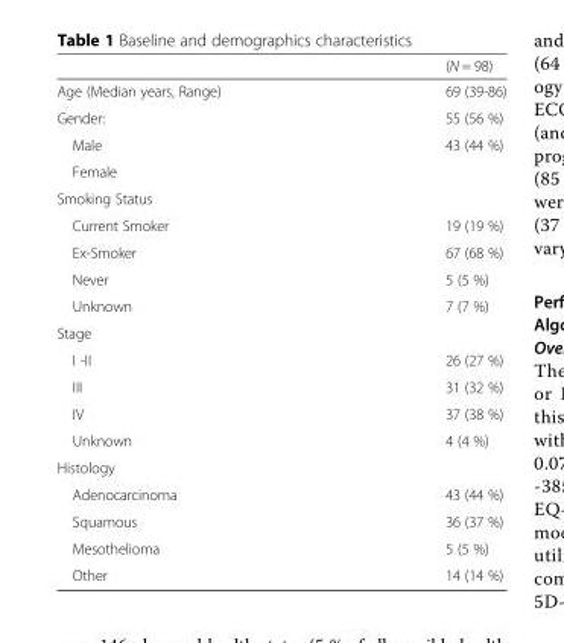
<table><thead><tr><td></td><td>(N = 98)</td></tr></thead><tbody><tr><td>Age (Median years, Range)</td><td>69 (39-86)</td></tr><tr><td>Gender:</td><td>55 (56 %)</td></tr><tr><td>Male</td><td>43 (44 %)</td></tr><tr><td colspan="2">Female</td></tr><tr><td colspan="2">Smoking Status</td></tr><tr><td>Current Smoker</td><td>19 (19 %)</td></tr><tr><td>Ex-Smoker</td><td>67 (68 %)</td></tr><tr><td>Never</td><td>5 (5 %)</td></tr><tr><td>Unknown</td><td>7 (7 %)</td></tr><tr><td colspan="2">Stage</td></tr><tr><td>I -II</td><td>26 (27 %)</td></tr><tr><td>III</td><td>31 (32 %)</td></tr><tr><td>IV</td><td>37 (38 %)</td></tr><tr><td>Unknown</td><td>4 (4 %)</td></tr><tr><td colspan="2">Histology</td></tr><tr><td>Adenocarcinoma</td><td>43 (44 %)</td></tr><tr><td>Squamous</td><td>36 (37 %)</td></tr><tr><td>Mesothelioma</td><td>5 (5 %)</td></tr><tr><td>Other</td><td>14 (14 %)</td></tr></tbody></table>